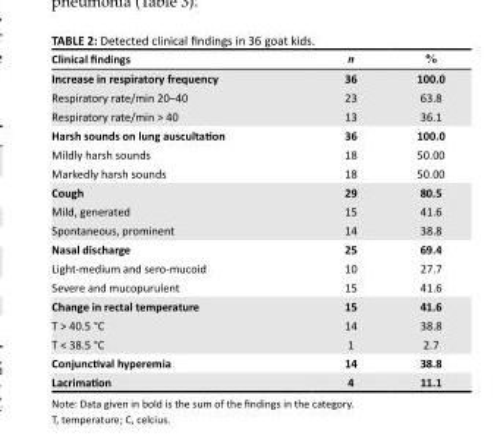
<table><thead><tr><td>Clinical findings</td><td>n</td><td>%</td></tr></thead><tbody><tr><td>Increase in respiratory frequency</td><td>36</td><td>100.0</td></tr><tr><td>Respiratory rate/min 20–40</td><td>23</td><td>63.8</td></tr><tr><td>Respiratory rate/min &gt; 40</td><td>13</td><td>36.1</td></tr><tr><td>Harsh sounds on lung auscultation</td><td>36</td><td>100.0</td></tr><tr><td>Mildly harsh sounds</td><td>18</td><td>50.00</td></tr><tr><td>Markedly harsh sounds</td><td>18</td><td>50.00</td></tr><tr><td>Cough</td><td>29</td><td>80.5</td></tr><tr><td>Mild, generated</td><td>15</td><td>41.6</td></tr><tr><td>Spontaneous, prominent</td><td>14</td><td>38.8</td></tr><tr><td>Nasal discharge</td><td>25</td><td>69.4</td></tr><tr><td>Light-medium and sero-mucoid</td><td>10</td><td>27.7</td></tr><tr><td>Severe and mucopurulent</td><td>15</td><td>41.6</td></tr><tr><td>Change in rectal temperature</td><td>15</td><td>41.6</td></tr><tr><td>T &gt; 40.5 °C</td><td>14</td><td>38.8</td></tr><tr><td>T &lt; 38.5 °C</td><td>1</td><td>2.7</td></tr><tr><td>Conjunctival hyperemia</td><td>14</td><td>38.8</td></tr><tr><td>Lacrimation</td><td>4</td><td>11.1</td></tr></tbody></table>